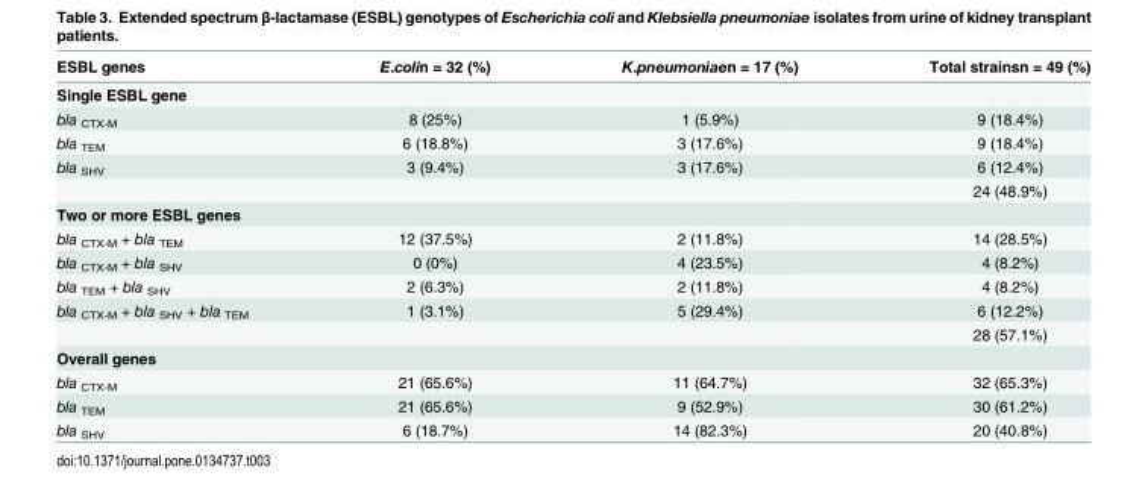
<table><thead><tr><td>ESBL genes</td><td>E.colin = 32 (%)</td><td>K.pneumoniaen = 17 (%)</td><td>Total strainsn = 49 (%)</td></tr></thead><tbody><tr><td colspan="4">Single ESBL gene</td></tr><tr><td>bla <sub>CTX-M</sub></td><td>8 (25%)</td><td>1 (5.9%)</td><td>9 (18.4%)</td></tr><tr><td>bla <sub>TEM</sub></td><td>6 (18.8%)</td><td>3 (17.6%)</td><td>9 (18.4%)</td></tr><tr><td rowspan="2">bla <sub>SHV</sub></td><td>3 (9.4%)</td><td>3 (17.6%)</td><td>6 (12.4%)</td></tr><tr><td></td><td></td><td>24 (48.9%)</td></tr><tr><td colspan="4">Two or more ESBL genes</td></tr><tr><td>bla <sub>CTX-M</sub> + bla <sub>TEM</sub></td><td>12 (37.5%)</td><td>2 (11.8%)</td><td>14 (28.5%)</td></tr><tr><td>bla <sub>CTX-M</sub> + bla <sub>SHV</sub></td><td>0 (0%)</td><td>4 (23.5%)</td><td>4 (8.2%)</td></tr><tr><td>bla <sub>TEM</sub> + bla <sub>SHV</sub></td><td>2 (6.3%)</td><td>2 (11.8%)</td><td>4 (8.2%)</td></tr><tr><td rowspan="2">bla <sub>CTX-M</sub> + bla <sub>SHV</sub> + bla <sub>TEM</sub></td><td>1 (3.1%)</td><td>5 (29.4%)</td><td>6 (12.2%)</td></tr><tr><td></td><td></td><td>28 (57.1%)</td></tr><tr><td colspan="4">Overall genes</td></tr><tr><td>bla <sub>CTX-M</sub></td><td>21 (65.6%)</td><td>11 (64.7%)</td><td>32 (65.3%)</td></tr><tr><td>bla <sub>TEM</sub></td><td>21 (65.6%)</td><td>9 (52.9%)</td><td>30 (61.2%)</td></tr><tr><td>bla <sub>SHV</sub></td><td>6 (18.7%)</td><td>14 (82.3%)</td><td>20 (40.8%)</td></tr></tbody></table>